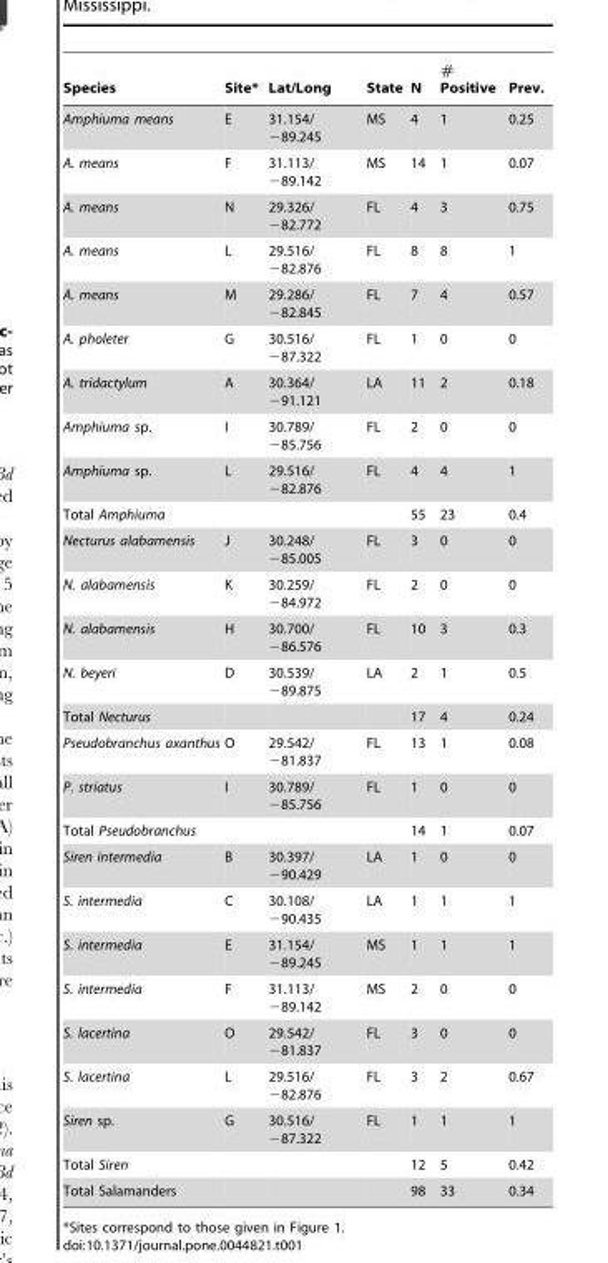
<table><thead><tr><td>Species</td><td>Site*</td><td>Lat/Long</td><td>State</td><td>N</td><td># Positive</td><td>Prev.</td></tr></thead><tbody><tr><td>Amphiuma means</td><td>E</td><td>31.154/ −89.245</td><td>MS</td><td>4</td><td>1</td><td>0.25</td></tr><tr><td>A. means</td><td>F</td><td>31.113/ −89.142</td><td>MS</td><td>14</td><td>1</td><td>0.07</td></tr><tr><td>A. means</td><td>N</td><td>29.326/ −82.772</td><td>FL</td><td>4</td><td>3</td><td>0.75</td></tr><tr><td>A. means</td><td>L</td><td>29.516/ −82.876</td><td>FL</td><td>8</td><td>8</td><td>1</td></tr><tr><td>A. means</td><td>M</td><td>29.286/ −82.845</td><td>FL</td><td>7</td><td>4</td><td>0.57</td></tr><tr><td>A. pholeter</td><td>G</td><td>30.516/ −87.322</td><td>FL</td><td>1</td><td>0</td><td>0</td></tr><tr><td>A. tridactylum</td><td>A</td><td>30.364/ −91.121</td><td>LA</td><td>11</td><td>2</td><td>0.18</td></tr><tr><td>Amphiuma sp.</td><td>I</td><td>30.789/ −85.756</td><td>FL</td><td>2</td><td>0</td><td>0</td></tr><tr><td>Amphiuma sp.</td><td>L</td><td>29.516/ −82.876</td><td>FL</td><td>4</td><td>4</td><td>1</td></tr><tr><td>Total Amphiuma</td><td></td><td></td><td></td><td>55</td><td>23</td><td>0.4</td></tr><tr><td>Necturus alabamensis</td><td>J</td><td>30.248/ −85.005</td><td>FL</td><td>3</td><td>0</td><td>0</td></tr><tr><td>N. alabamensis</td><td>K</td><td>30.259/ −84.972</td><td>FL</td><td>2</td><td>0</td><td>0</td></tr><tr><td>N. alabamensis</td><td>H</td><td>30.700/ −86.576</td><td>FL</td><td>10</td><td>3</td><td>0.3</td></tr><tr><td>N. beyeri</td><td>D</td><td>30.539/ −89.875</td><td>LA</td><td>2</td><td>1</td><td>0.5</td></tr><tr><td>Total Necturus</td><td></td><td></td><td></td><td>17</td><td>4</td><td>0.24</td></tr><tr><td>Pseudobranchus axanthus</td><td>O</td><td>29.542/ −81.837</td><td>FL</td><td>13</td><td>1</td><td>0.08</td></tr><tr><td>P. striatus</td><td>I</td><td>30.789/ −85.756</td><td>FL</td><td>1</td><td>0</td><td>0</td></tr><tr><td>Total Pseudobranchus</td><td></td><td></td><td></td><td>14</td><td>1</td><td>0.07</td></tr><tr><td>Siren intermedia</td><td>B</td><td>30.397/ −90.429</td><td>LA</td><td>1</td><td>0</td><td>0</td></tr><tr><td>S. intermedia</td><td>C</td><td>30.108/ −90.435</td><td>LA</td><td>1</td><td>1</td><td>1</td></tr><tr><td>S. intermedia</td><td>E</td><td>31.154/ −89.245</td><td>MS</td><td>1</td><td>1</td><td>1</td></tr><tr><td>S. intermedia</td><td>F</td><td>31.113/ −89.142</td><td>MS</td><td>2</td><td>0</td><td>0</td></tr><tr><td>S. lacertina</td><td>O</td><td>29.542/ −81.837</td><td>FL</td><td>3</td><td>0</td><td>0</td></tr><tr><td>S. lacertina</td><td>L</td><td>29.516/ −82.876</td><td>FL</td><td>3</td><td>2</td><td>0.67</td></tr><tr><td>Siren sp.</td><td>G</td><td>30.516/ −87.322</td><td>FL</td><td>1</td><td>1</td><td>1</td></tr><tr><td>Total Siren</td><td></td><td></td><td></td><td>12</td><td>5</td><td>0.42</td></tr><tr><td>Total Salamanders</td><td></td><td></td><td></td><td>98</td><td>33</td><td>0.34</td></tr></tbody></table>